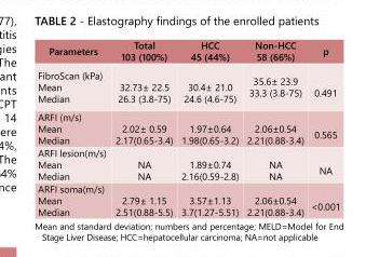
<table><tbody><tr><td>Parameters</td><td>Total 103 (100%)</td><td>HCC 45 (44%)</td><td>Non-HCC 58 (66%)</td><td>p</td></tr><tr><td>FibroScan (kPa) Mean Median</td><td>32.73± 22.5 26.3 (3.8-75)</td><td>30.4± 21.0 24.6 (4.6-75)</td><td>35.6± 23.9 33.3 (3.8-75)</td><td>0.491</td></tr><tr><td>ARFI (m/s) Mean Median</td><td>2.02± 0.59 2.17(0.65-3.4)</td><td>1.97±0.64 1.98(0.65-3.2)</td><td>2.06±0.54 2.21(0.88-3.4)</td><td>0.565</td></tr><tr><td>ARFI lesion(m/s) Mean Median</td><td>NA NA</td><td>1.89±0.74 2.16(0.59-2.8)</td><td>NA NA</td><td>NA</td></tr><tr><td>ARFI soma(m/s) Mean Median</td><td>2.79± 1.15 2.51(0.88-5.5)</td><td>3.57±1.13 3.7(1.27-5.51)</td><td>2.06±0.54 2.21(0.88-3.4)</td><td>&lt;0.001</td></tr></tbody></table>